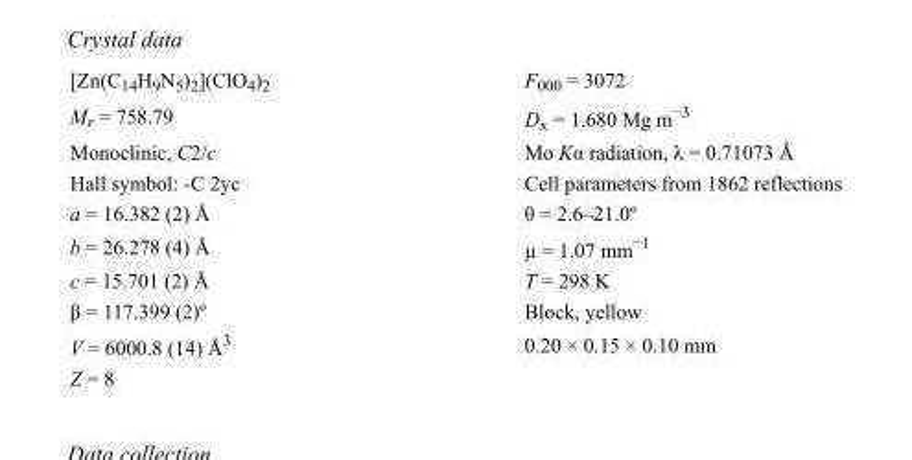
<table><tbody><tr><td>[Zn(C<sub>14</sub>H<sub>9</sub>N<sub>5</sub>)<sub>2</sub>](ClO<sub>4</sub>)<sub>2</sub></td><td>F000 = 3072</td></tr><tr><td>M<sub>r</sub> = 758.79</td><td>D<sub>x</sub> = 1.680 Mg m<sup>−3</sup></td></tr><tr><td>Monoclinic, C2/c</td><td>Mo Kα radiation, λ = 0.71073 Å</td></tr><tr><td>Hall symbol: -C 2yc</td><td>Cell parameters from 1862 reflections</td></tr><tr><td>a = 16.382 (2) Å</td><td>θ = 2.6–21.0º</td></tr><tr><td>b = 26.278 (4) Å</td><td>µ = 1.07 mm<sup>−1</sup></td></tr><tr><td>c = 15.701 (2) Å</td><td>T = 298 K</td></tr><tr><td>β = 117.399 (2)º</td><td>Block, yellow</td></tr><tr><td>V = 6000.8 (14) Å<sup>3</sup></td><td>0.20 × 0.15 × 0.10 mm</td></tr><tr><td>Z = 8</td><td></td></tr></tbody></table>